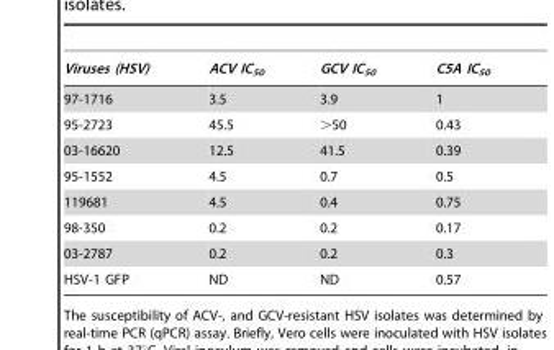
<table><thead><tr><td>Viruses (HSV)</td><td>ACV IC<sub>50</sub></td><td>GCV IC<sub>50</sub></td><td>C5A IC<sub>50</sub></td></tr></thead><tbody><tr><td>97-1716</td><td>3.5</td><td>3.9</td><td>1</td></tr><tr><td>95-2723</td><td>45.5</td><td>&gt;50</td><td>0.43</td></tr><tr><td>03-16620</td><td>12.5</td><td>41.5</td><td>0.39</td></tr><tr><td>95-1552</td><td>4.5</td><td>0.7</td><td>0.5</td></tr><tr><td>119681</td><td>4.5</td><td>0.4</td><td>0.75</td></tr><tr><td>98-350</td><td>0.2</td><td>0.2</td><td>0.17</td></tr><tr><td>03-2787</td><td>0.2</td><td>0.2</td><td>0.3</td></tr><tr><td>HSV-1 GFP</td><td>ND</td><td>ND</td><td>0.57</td></tr></tbody></table>